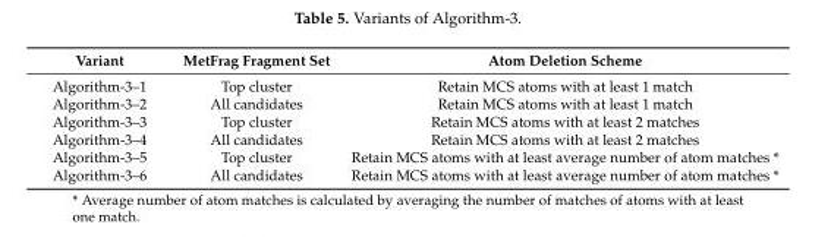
<table><thead><tr><td>Variant</td><td>MetFrag Fragment Set</td><td>Atom Deletion Scheme</td></tr></thead><tbody><tr><td>Algorithm-3–1</td><td>Top cluster</td><td>Retain MCS atoms with at least 1 match</td></tr><tr><td>Algorithm-3–2</td><td>All candidates</td><td>Retain MCS atoms with at least 1 match</td></tr><tr><td>Algorithm-3–3</td><td>Top cluster</td><td>Retain MCS atoms with at least 2 matches</td></tr><tr><td>Algorithm-3–4</td><td>All candidates</td><td>Retain MCS atoms with at least 2 matches</td></tr><tr><td>Algorithm-3–5</td><td>Top cluster</td><td>Retain MCS atoms with at least average number of atom matches *</td></tr><tr><td>Algorithm-3–6</td><td>All candidates</td><td>Retain MCS atoms with at least average number of atom matches *</td></tr></tbody></table>